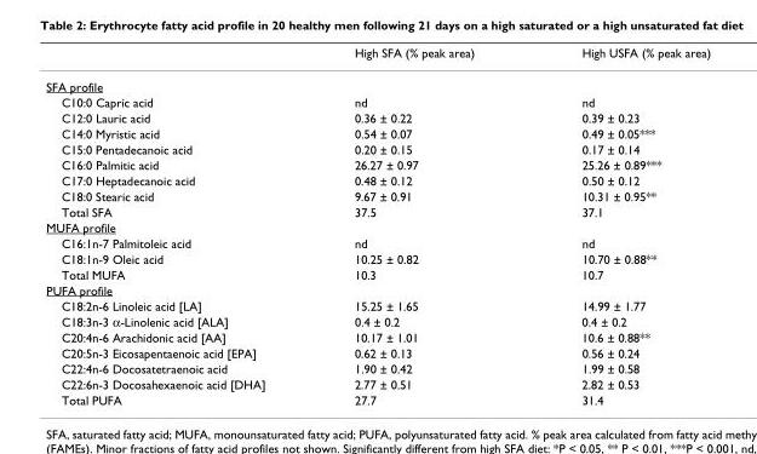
<table><thead><tr><td></td><td>High SFA (% peak area)</td><td>High USFA (% peak area)</td></tr></thead><tbody><tr><td colspan="3">SFA profile</td></tr><tr><td>C10:0 Capric acid</td><td>nd</td><td>nd</td></tr><tr><td>C12:0 Lauric acid</td><td>0.36 ± 0.22</td><td>0.39 ± 0.23</td></tr><tr><td>C14:0 Myristic acid</td><td>0.54 ± 0.07</td><td>0.49 ± 0.05***</td></tr><tr><td>C15:0 Pentadecanoic acid</td><td>0.20 ± 0.15</td><td>0.17 ± 0.14</td></tr><tr><td>C16:0 Palmitic acid</td><td>26.27 ± 0.97</td><td>25.26 ± 0.89***</td></tr><tr><td>C17:0 Heptadecanoic acid</td><td>0.48 ± 0.12</td><td>0.50 ± 0.12</td></tr><tr><td>C18:0 Stearic acid</td><td>9.67 ± 0.91</td><td>10.31 ± 0.95**</td></tr><tr><td>Total SFA</td><td>37.5</td><td>37.1</td></tr><tr><td colspan="3">MUFA profile</td></tr><tr><td>C16:1n-7 Palmitoleic acid</td><td>nd</td><td>nd</td></tr><tr><td>C18:1n-9 Oleic acid</td><td>10.25 ± 0.82</td><td>10.70 ± 0.88**</td></tr><tr><td>Total MUFA</td><td>10.3</td><td>10.7</td></tr><tr><td colspan="3">PUFA profile</td></tr><tr><td>C18:2n-6 Linoleic acid [LA]</td><td>15.25 ± 1.65</td><td>14.99 ± 1.77</td></tr><tr><td>C18:3n-3 α-Linolenic acid [ALA]</td><td>0.4 ± 0.2</td><td>0.4 ± 0.2</td></tr><tr><td>C20:4n-6 Arachidonic acid [AA]</td><td>10.17 ± 1.01</td><td>10.6 ± 0.88**</td></tr><tr><td>C20:5n-3 Eicosapentaenoic acid [EPA]</td><td>0.62 ± 0.13</td><td>0.56 ± 0.24</td></tr><tr><td>C22:4n-6 Docosatetraenoic acid</td><td>1.90 ± 0.42</td><td>1.99 ± 0.58</td></tr><tr><td>C22:6n-3 Docosahexaenoic acid [DHA]</td><td>2.77 ± 0.51</td><td>2.82 ± 0.53</td></tr><tr><td>Total PUFA</td><td>27.7</td><td>31.4</td></tr></tbody></table>